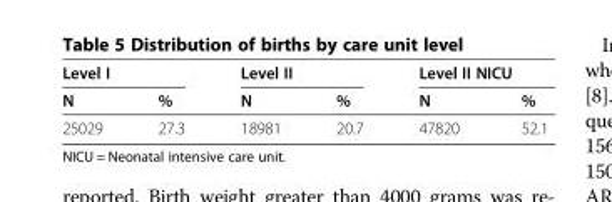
<table><thead><tr><td colspan="2">Level I</td><td colspan="2">Level II</td><td colspan="2">Level II NICU</td></tr><tr><td>N</td><td>%</td><td>N</td><td>%</td><td>N</td><td>%</td></tr></thead><tbody><tr><td>25029</td><td>27.3</td><td>18981</td><td>20.7</td><td>47820</td><td>52.1</td></tr></tbody></table>